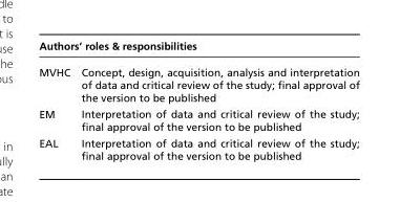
<table><thead><tr><td colspan="2">Authors’ roles &amp; responsibilities</td></tr><tr><td>MVHC</td><td>Concept, design, acquisition, analysis and interpretation of data and critical review of the study; final approval of the version to be published</td></tr></thead><tbody><tr><td>EM</td><td>Interpretation of data and critical review of the study; final approval of the version to be published</td></tr><tr><td>EAL</td><td>Interpretation of data and critical review of the study; final approval of the version to be published</td></tr></tbody></table>